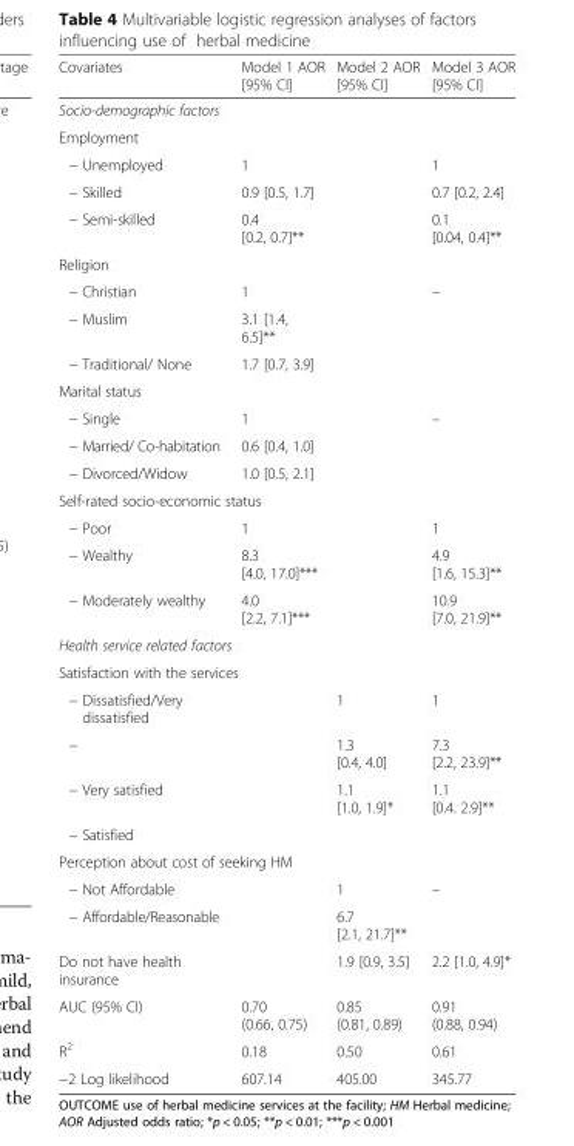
<table><thead><tr><td>Covariates</td><td>Model 1 AOR [95% CI]</td><td>Model 2 AOR [95% CI]</td><td>Model 3 AOR [95% CI]</td></tr></thead><tbody><tr><td colspan="4">Socio-demographic factors</td></tr><tr><td colspan="4">Employment</td></tr><tr><td>− Unemployed</td><td>1</td><td></td><td>1</td></tr><tr><td>− Skilled</td><td>0.9 [0.5, 1.7]</td><td></td><td>0.7 [0.2, 2.4]</td></tr><tr><td>− Semi-skilled</td><td>0.4 [0.2, 0.7]**</td><td></td><td>0.1 [0.04, 0.4]**</td></tr><tr><td colspan="4">Religion</td></tr><tr><td>− Christian</td><td>1</td><td></td><td>–</td></tr><tr><td>− Muslim</td><td>3.1 [1.4, 6.5]**</td><td></td><td></td></tr><tr><td>− Traditional/ None</td><td>1.7 [0.7, 3.9]</td><td></td><td></td></tr><tr><td colspan="4">Marital status</td></tr><tr><td>− Single</td><td>1</td><td></td><td>–</td></tr><tr><td>− Married/ Co-habitation</td><td>0.6 [0.4, 1.0]</td><td></td><td></td></tr><tr><td>− Divorced/Widow</td><td>1.0 [0.5, 2.1]</td><td></td><td></td></tr><tr><td colspan="4">Self-rated socio-economic status</td></tr><tr><td>− Poor</td><td>1</td><td></td><td>1</td></tr><tr><td>− Wealthy</td><td>8.3 [4.0, 17.0]***</td><td></td><td>4.9 [1.6, 15.3]**</td></tr><tr><td>− Moderately wealthy</td><td>4.0 [2.2, 7.1]***</td><td></td><td>10.9 [7.0, 21.9]**</td></tr><tr><td colspan="4">Health service related factors</td></tr><tr><td colspan="4">Satisfaction with the services</td></tr><tr><td>− Dissatisfied/Very dissatisfied</td><td></td><td>1</td><td>1</td></tr><tr><td>−</td><td></td><td>1.3 [0.4, 4.0]</td><td>7.3 [2.2, 23.9]**</td></tr><tr><td>− Very satisfied</td><td></td><td>1.1 [1.0, 1.9]*</td><td>1.1 [0.4. 2.9]**</td></tr><tr><td colspan="4">− Satisfied</td></tr><tr><td colspan="4">Perception about cost of seeking HM</td></tr><tr><td>− Not Affordable</td><td></td><td>1</td><td>–</td></tr><tr><td>− Affordable/Reasonable</td><td></td><td>6.7 [2.1, 21.7]**</td><td></td></tr><tr><td>Do not have health insurance</td><td></td><td>1.9 [0.9, 3.5]</td><td>2.2 [1.0, 4.9]*</td></tr><tr><td>AUC (95% CI)</td><td>0.70 (0.66, 0.75)</td><td>0.85 (0.81, 0.89)</td><td>0.91 (0.88, 0.94)</td></tr><tr><td>R<sup>2</sup></td><td>0.18</td><td>0.50</td><td>0.61</td></tr><tr><td>−2 Log likelihood</td><td>607.14</td><td>405.00</td><td>345.77</td></tr></tbody></table>